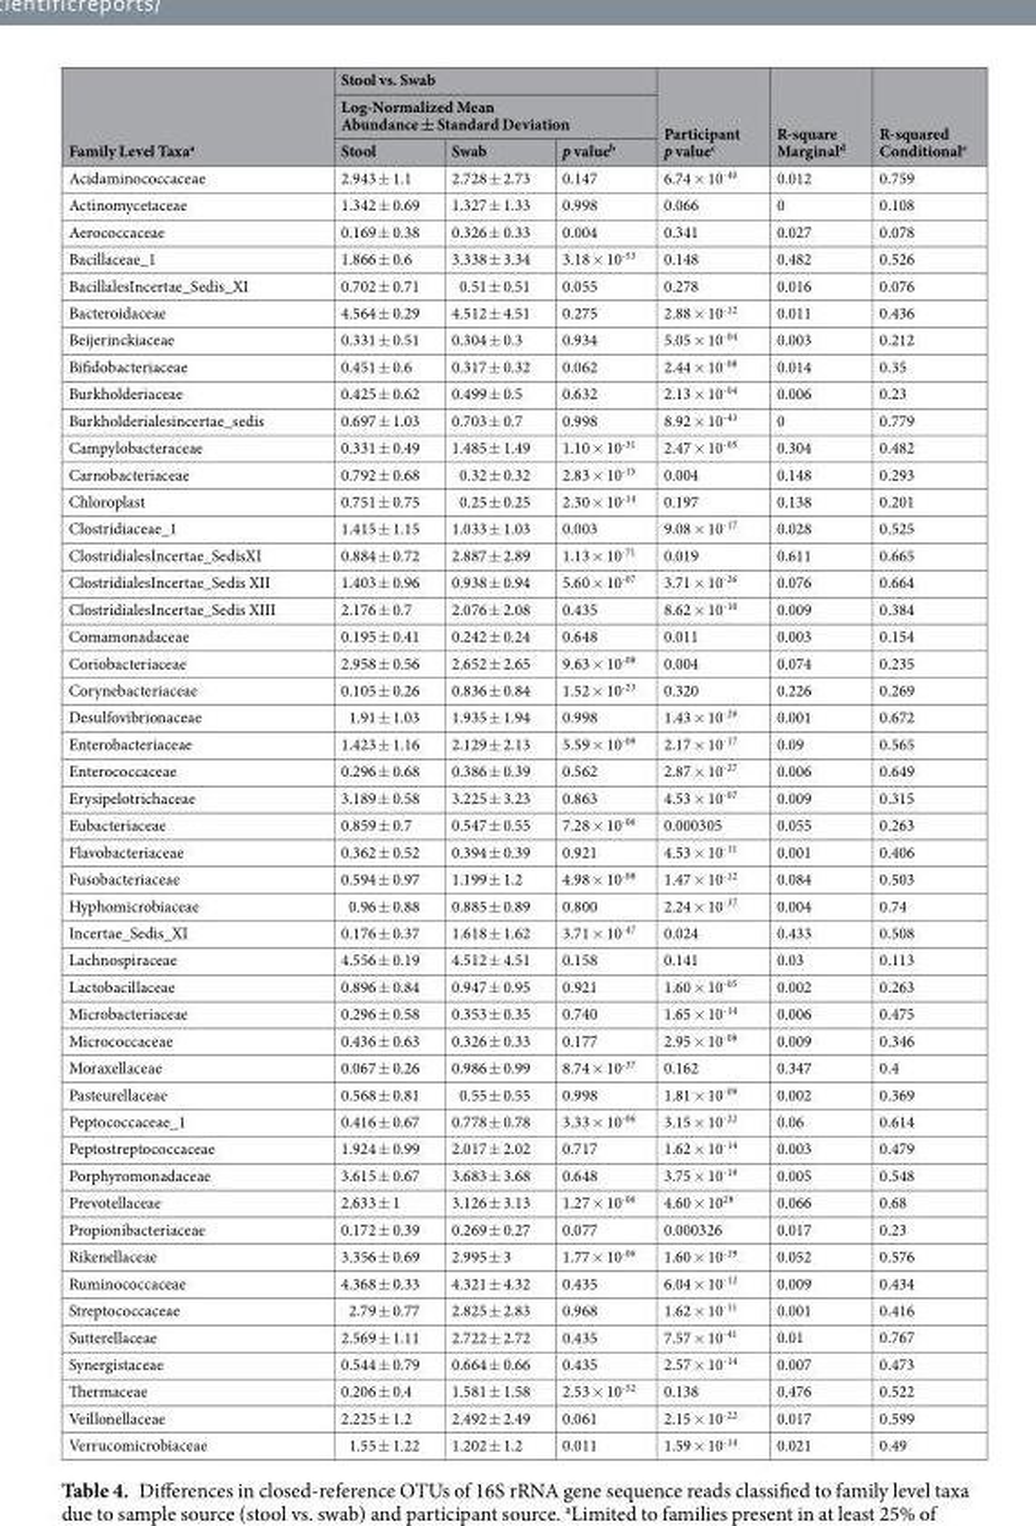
<table><thead><tr><td rowspan="3">Family Level Taxa<sup>a</sup></td><td rowspan="2" colspan="3">Stool vs. Swab Log-Normalized Mean Abundance ± Standard Deviation</td><td rowspan="3">Participant p value<sup>c</sup></td><td rowspan="3">R-square Marginal<sup>d</sup></td><td rowspan="3">R-squared Conditional<sup>e</sup></td></tr><tr></tr><tr><td>Stool</td><td>Swab</td><td>p value<sup>b</sup></td></tr></thead><tbody><tr><td>Acidaminococcaceae</td><td>2.943 ± 1.1</td><td>2.728 ± 2.73</td><td>0.147</td><td>6.74 × 10<sup>-40</sup></td><td>0.012</td><td>0.759</td></tr><tr><td>Actinomycetaceae</td><td>1.342 ± 0.69</td><td>1.327 ± 1.33</td><td>0.998</td><td>0.066</td><td>0</td><td>0.108</td></tr><tr><td>Aerococcaceae</td><td>0.169 ± 0.38</td><td>0.326 ± 0.33</td><td>0.004</td><td>0.341</td><td>0.027</td><td>0.078</td></tr><tr><td>Bacillaceae_1</td><td>1.866 ± 0.6</td><td>3.338 ± 3.34</td><td>3.18 × 10<sup>-53</sup></td><td>0.148</td><td>0.482</td><td>0.526</td></tr><tr><td>BacillalesIncertae_Sedis_XI</td><td>0.702 ± 0.71</td><td>0.51 ± 0.51</td><td>0.055</td><td>0.278</td><td>0.016</td><td>0.076</td></tr><tr><td>Bacteroidaceae</td><td>4.564 ± 0.29</td><td>4.512 ± 4.51</td><td>0.275</td><td>2.88 × 10<sup>-12</sup></td><td>0.011</td><td>0.436</td></tr><tr><td>Beijerinckiaceae</td><td>0.331 ± 0.51</td><td>0.304 ± 0.3</td><td>0.934</td><td>5.05 × 10<sup>-04</sup></td><td>0.003</td><td>0.212</td></tr><tr><td>Bifidobacteriaceae</td><td>0.451 ± 0.6</td><td>0.317 ± 0.32</td><td>0.062</td><td>2.44 × 10<sup>-08</sup></td><td>0.014</td><td>0.35</td></tr><tr><td>Burkholderiaceae</td><td>0.425 ± 0.62</td><td>0.499 ± 0.5</td><td>0.632</td><td>2.13 × 10<sup>-04</sup></td><td>0.006</td><td>0.23</td></tr><tr><td>Burkholderialesincertae_sedis</td><td>0.697 ± 1.03</td><td>0.703 ± 0.7</td><td>0.998</td><td>8.92 × 10<sup>-43</sup></td><td>0</td><td>0.779</td></tr><tr><td>Campylobacteraceae</td><td>0.331 ± 0.49</td><td>1.485 ± 1.49</td><td>1.10 × 10<sup>-31</sup></td><td>2.47 × 10<sup>-05</sup></td><td>0.304</td><td>0.482</td></tr><tr><td>Carnobacteriaceae</td><td>0.792 ± 0.68</td><td>0.32 ± 0.32</td><td>2.83 × 10<sup>-15</sup></td><td>0.004</td><td>0.148</td><td>0.293</td></tr><tr><td>Chloroplast</td><td>0.751 ± 0.75</td><td>0.25 ± 0.25</td><td>2.30 × 10<sup>-14</sup></td><td>0.197</td><td>0.138</td><td>0.201</td></tr><tr><td>Clostridiaceae_1</td><td>1.415 ± 1.15</td><td>1.033 ± 1.03</td><td>0.003</td><td>9.08 × 10<sup>-17</sup></td><td>0.028</td><td>0.525</td></tr><tr><td>ClostridialesIncertae_SedisXI</td><td>0.884 ± 0.72</td><td>2.887 ± 2.89</td><td>1.13 × 10<sup>-71</sup></td><td>0.019</td><td>0.611</td><td>0.665</td></tr><tr><td>ClostridialesIncertae_Sedis XII</td><td>1.403 ± 0.96</td><td>0.938 ± 0.94</td><td>5.60 × 10<sup>-07</sup></td><td>3.71 × 10<sup>-26</sup></td><td>0.076</td><td>0.664</td></tr><tr><td>ClostridialesIncertae_Sedis XIII</td><td>2.176 ± 0.7</td><td>2.076 ± 2.08</td><td>0.435</td><td>8.62 × 10<sup>-10</sup></td><td>0.009</td><td>0.384</td></tr><tr><td>Comamonadaceae</td><td>0.195 ± 0.41</td><td>0.242 ± 0.24</td><td>0.648</td><td>0.011</td><td>0.003</td><td>0.154</td></tr><tr><td>Coriobacteriaceae</td><td>2.958 ± 0.56</td><td>2.652 ± 2.65</td><td>9.63 × 10<sup>-08</sup></td><td>0.004</td><td>0.074</td><td>0.235</td></tr><tr><td>Corynebacteriaceae</td><td>0.105 ± 0.26</td><td>0.836 ± 0.84</td><td>1.52 × 10<sup>-23</sup></td><td>0.320</td><td>0.226</td><td>0.269</td></tr><tr><td>Desulfovibrionaceae</td><td>1.91 ± 1.03</td><td>1.935 ± 1.94</td><td>0.998</td><td>1.43 × 10<sup>-29</sup></td><td>0.001</td><td>0.672</td></tr><tr><td>Enterobacteriaceae</td><td>1.423 ± 1.16</td><td>2.129 ± 2.13</td><td>5.59 × 10<sup>-09</sup></td><td>2.17 × 10<sup>-17</sup></td><td>0.09</td><td>0.565</td></tr><tr><td>Enterococcaceae</td><td>0.296 ± 0.68</td><td>0.386 ± 0.39</td><td>0.562</td><td>2.87 × 10<sup>-27</sup></td><td>0.006</td><td>0.649</td></tr><tr><td>Erysipelotrichaceae</td><td>3.189 ± 0.58</td><td>3.225 ± 3.23</td><td>0.863</td><td>4.53 × 10<sup>-07</sup></td><td>0.009</td><td>0.315</td></tr><tr><td>Eubacteriaceae</td><td>0.859 ± 0.7</td><td>0.547 ± 0.55</td><td>7.28 × 10<sup>-06</sup></td><td>0.000305</td><td>0.055</td><td>0.263</td></tr><tr><td>Flavobacteriaceae</td><td>0.362 ± 0.52</td><td>0.394 ± 0.39</td><td>0.921</td><td>4.53 × 10<sup>-11</sup></td><td>0.001</td><td>0.406</td></tr><tr><td>Fusobacteriaceae</td><td>0.594 ± 0.97</td><td>1.199 ± 1.2</td><td>4.98 × 10<sup>-08</sup></td><td>1.47 × 10<sup>-12</sup></td><td>0.084</td><td>0.503</td></tr><tr><td>Hyphomicrobiaceae</td><td>0.96 ± 0.88</td><td>0.885 ± 0.89</td><td>0.800</td><td>2.24 × 10<sup>-37</sup></td><td>0.004</td><td>0.74</td></tr><tr><td>Incertae_Sedis_XI</td><td>0.176 ± 0.37</td><td>1.618 ± 1.62</td><td>3.71 × 10<sup>-47</sup></td><td>0.024</td><td>0.433</td><td>0.508</td></tr><tr><td>Lachnospiraceae</td><td>4.556 ± 0.19</td><td>4.512 ± 4.51</td><td>0.158</td><td>0.141</td><td>0.03</td><td>0.113</td></tr><tr><td>Lactobacillaceae</td><td>0.896 ± 0.84</td><td>0.947 ± 0.95</td><td>0.921</td><td>1.60 × 10<sup>-05</sup></td><td>0.002</td><td>0.263</td></tr><tr><td>Microbacteriaceae</td><td>0.296 ± 0.58</td><td>0.353 ± 0.35</td><td>0.740</td><td>1.65 × 10<sup>-14</sup></td><td>0.006</td><td>0.475</td></tr><tr><td>Micrococcaceae</td><td>0.436 ± 0.63</td><td>0.326 ± 0.33</td><td>0.177</td><td>2.95 × 10<sup>-08</sup></td><td>0.009</td><td>0.346</td></tr><tr><td>Moraxellaceae</td><td>0.067 ± 0.26</td><td>0.986 ± 0.99</td><td>8.74 × 10<sup>-37</sup></td><td>0.162</td><td>0.347</td><td>0.4</td></tr><tr><td>Pasteurellaceae</td><td>0.568 ± 0.81</td><td>0.55 ± 0.55</td><td>0.998</td><td>1.81 × 10<sup>-09</sup></td><td>0.002</td><td>0.369</td></tr><tr><td>Peptococcaceae_1</td><td>0.416 ± 0.67</td><td>0.778 ± 0.78</td><td>3.33 × 10<sup>-06</sup></td><td>3.15 × 10<sup>-22</sup></td><td>0.06</td><td>0.614</td></tr><tr><td>Peptostreptococcaceae</td><td>1.924 ± 0.99</td><td>2.017 ± 2.02</td><td>0.717</td><td>1.62 × 10<sup>-14</sup></td><td>0.003</td><td>0.479</td></tr><tr><td>Porphyromonadaceae</td><td>3.615 ± 0.67</td><td>3.683 ± 3.68</td><td>0.648</td><td>3.75 × 10<sup>-19</sup></td><td>0.005</td><td>0.548</td></tr><tr><td>Prevotellaceae</td><td>2.633 ± 1</td><td>3.126 ± 3.13</td><td>1.27 × 10<sup>-06</sup></td><td>4.60 × 10<sup>28</sup></td><td>0.066</td><td>0.68</td></tr><tr><td>Propionibacteriaceae</td><td>0.172 ± 0.39</td><td>0.269 ± 0.27</td><td>0.077</td><td>0.000326</td><td>0.017</td><td>0.23</td></tr><tr><td>Rikenellaceae</td><td>3.356 ± 0.69</td><td>2.995 ± 3</td><td>1.77 × 10<sup>-06</sup></td><td>1.60 × 10<sup>-19</sup></td><td>0.052</td><td>0.576</td></tr><tr><td>Ruminococcaceae</td><td>4.368 ± 0.33</td><td>4.321 ± 4.32</td><td>0.435</td><td>6.04 × 10<sup>-12</sup></td><td>0.009</td><td>0.434</td></tr><tr><td>Streptococcaceae</td><td>2.79 ± 0.77</td><td>2.825 ± 2.83</td><td>0.968</td><td>1.62 × 10<sup>-11</sup></td><td>0.001</td><td>0.416</td></tr><tr><td>Sutterellaceae</td><td>2.569 ± 1.11</td><td>2.722 ± 2.72</td><td>0.435</td><td>7.57 × 10<sup>-41</sup></td><td>0.01</td><td>0.767</td></tr><tr><td>Synergistaceae</td><td>0.544 ± 0.79</td><td>0.664 ± 0.66</td><td>0.435</td><td>2.57 × 10<sup>-14</sup></td><td>0.007</td><td>0.473</td></tr><tr><td>Thermaceae</td><td>0.206 ± 0.4</td><td>1.581 ± 1.58</td><td>2.53 × 10<sup>-52</sup></td><td>0.138</td><td>0.476</td><td>0.522</td></tr><tr><td>Veillonellaceae</td><td>2.225 ± 1.2</td><td>2.492 ± 2.49</td><td>0.061</td><td>2.15 × 10<sup>-22</sup></td><td>0.017</td><td>0.599</td></tr><tr><td>Verrucomicrobiaceae</td><td>1.55 ± 1.22</td><td>1.202 ± 1.2</td><td>0.011</td><td>1.59 × 10<sup>-14</sup></td><td>0.021</td><td>0.49</td></tr></tbody></table>